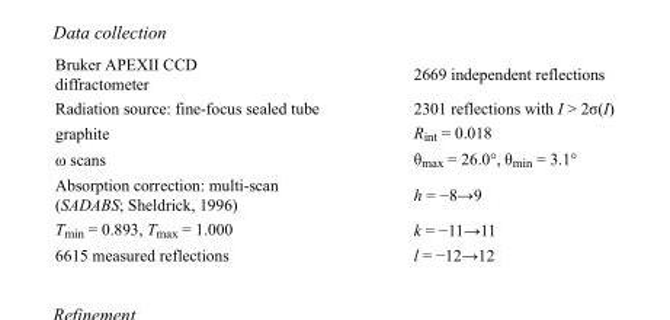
<table><tbody><tr><td>Bruker APEXII CCD diffractometer</td><td>2669 independent reflections</td></tr><tr><td>Radiation source: fine-focus sealed tube</td><td>2301 reflections with I &gt; 2σ(I)</td></tr><tr><td>graphite</td><td>R<sub>int</sub> = 0.018</td></tr><tr><td>ω scans</td><td>θ<sub>max</sub> = 26.0°, θ<sub>min</sub> = 3.1°</td></tr><tr><td>Absorption correction: multi-scan (SADABS; Sheldrick, 1996)</td><td>h = −8→9</td></tr><tr><td>T<sub>min</sub> = 0.893, T<sub>max</sub> = 1.000</td><td>k = −11→11</td></tr><tr><td>6615 measured reflections</td><td>l = −12→12</td></tr></tbody></table>